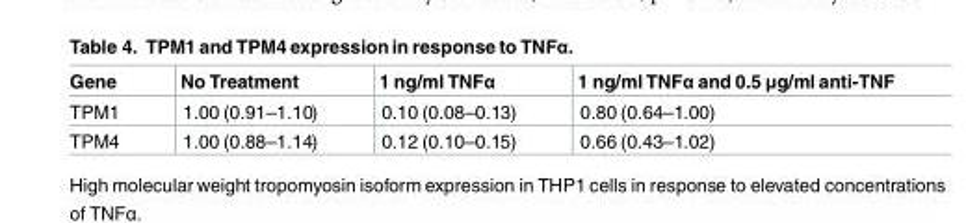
<table><thead><tr><td>Gene</td><td>No Treatment</td><td>1 ng/ml TNFα</td><td>1 ng/ml TNFα and 0.5 μg/ml anti-TNF</td></tr></thead><tbody><tr><td>TPM1</td><td>1.00 (0.91–1.10)</td><td>0.10 (0.08–0.13)</td><td>0.80 (0.64–1.00)</td></tr><tr><td>TPM4</td><td>1.00 (0.88–1.14)</td><td>0.12 (0.10–0.15)</td><td>0.66 (0.43–1.02)</td></tr></tbody></table>